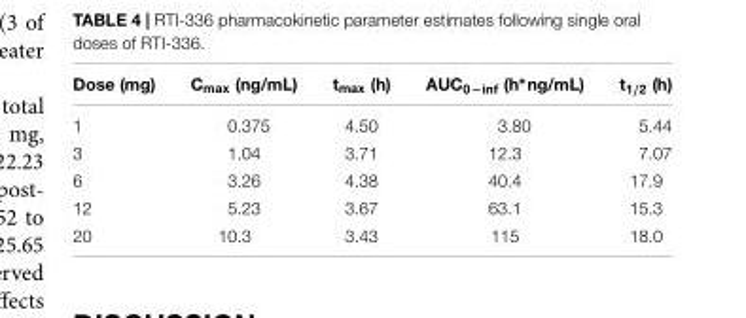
<table><thead><tr><td>Dose (mg)</td><td>C<sub>max</sub> (ng/mL)</td><td>t<sub>max</sub> (h)</td><td>AUC<sub>0−inf</sub> (h∗ng/mL)</td><td>t<sub>1/2</sub> (h)</td></tr></thead><tbody><tr><td>1</td><td>0.375</td><td>4.50</td><td>3.80</td><td>5.44</td></tr><tr><td>3</td><td>1.04</td><td>3.71</td><td>12.3</td><td>7.07</td></tr><tr><td>6</td><td>3.26</td><td>4.38</td><td>40.4</td><td>17.9</td></tr><tr><td>12</td><td>5.23</td><td>3.67</td><td>63.1</td><td>15.3</td></tr><tr><td>20</td><td>10.3</td><td>3.43</td><td>115</td><td>18.0</td></tr></tbody></table>